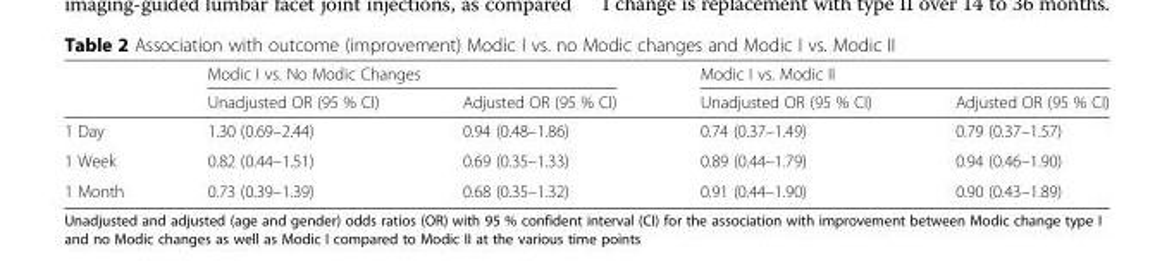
<table><thead><tr><td rowspan="2"></td><td colspan="2">Modic I vs. No Modic Changes</td><td colspan="2">Modic I vs. Modic II</td></tr><tr><td>Unadjusted OR (95 % CI)</td><td>Adjusted OR (95 % CI)</td><td>Unadjusted OR (95 % CI)</td><td>Adjusted OR (95 % CI)</td></tr></thead><tbody><tr><td>1 Day</td><td>1.30 (0.69–2.44)</td><td>0.94 (0.48–1.86)</td><td>0.74 (0.37–1.49)</td><td>0.79 (0.37–1.57)</td></tr><tr><td>1 Week</td><td>0.82 (0.44–1.51)</td><td>0.69 (0.35–1.33)</td><td>0.89 (0.44–1.79)</td><td>0.94 (0.46–1.90)</td></tr><tr><td>1 Month</td><td>0.73 (0.39–1.39)</td><td>0.68 (0.35–1.32)</td><td>0.91 (0.44–1.90)</td><td>0.90 (0.43–1.89)</td></tr></tbody></table>